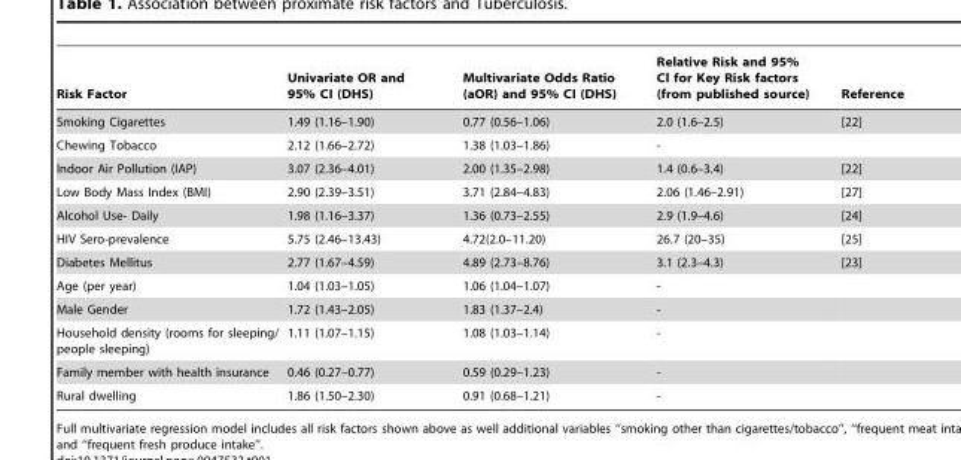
<table><thead><tr><td>Risk Factor</td><td>Univariate OR and 95% CI (DHS)</td><td>Multivariate Odds Ratio (aOR) and 95% CI (DHS)</td><td>Relative Risk and 95% Cl for Key Risk factors (from published source)</td><td>Reference</td></tr></thead><tbody><tr><td>Smoking Cigarettes</td><td>1.49 (1.16–1.90)</td><td>0.77 (0.56–1.06)</td><td>2.0 (1.6–2.5)</td><td>[22]</td></tr><tr><td>Chewing Tobacco</td><td>2.12 (1.66–2.72)</td><td>1.38 (1.03–1.86)</td><td>-</td><td></td></tr><tr><td>Indoor Air Pollution (IAP)</td><td>3.07 (2.36–4.01)</td><td>2.00 (1.35–2.98)</td><td>1.4 (0.6–3.4)</td><td>[22]</td></tr><tr><td>Low Body Mass Index (BMI)</td><td>2.90 (2.39–3.51)</td><td>3.71 (2.84–4.83)</td><td>2.06 (1.46–2.91)</td><td>[27]</td></tr><tr><td>Alcohol Use- Daily</td><td>1.98 (1.16–3.37)</td><td>1.36 (0.73–2.55)</td><td>2.9 (1.9–4.6)</td><td>[24]</td></tr><tr><td>HIV Sero-prevalence</td><td>5.75 (2.46–13.43)</td><td>4.72(2.0–11.20)</td><td>26.7 (20–35)</td><td>[25]</td></tr><tr><td>Diabetes Mellitus</td><td>2.77 (1.67–4.59)</td><td>4.89 (2.73–8.76)</td><td>3.1 (2.3–4.3)</td><td>[23]</td></tr><tr><td>Age (per year)</td><td>1.04 (1.03–1.05)</td><td>1.06 (1.04–1.07)</td><td>-</td><td></td></tr><tr><td>Male Gender</td><td>1.72 (1.43–2.05)</td><td>1.83 (1.37–2.4)</td><td>-</td><td></td></tr><tr><td>Household density (rooms for sleeping/ people sleeping)</td><td>1.11 (1.07–1.15)</td><td>1.08 (1.03–1.14)</td><td>-</td><td></td></tr><tr><td>Family member with health insurance</td><td>0.46 (0.27–0.77)</td><td>0.59 (0.29–1.23)</td><td>-</td><td></td></tr><tr><td>Rural dwelling</td><td>1.86 (1.50–2.30)</td><td>0.91 (0.68–1.21)</td><td>-</td><td></td></tr></tbody></table>